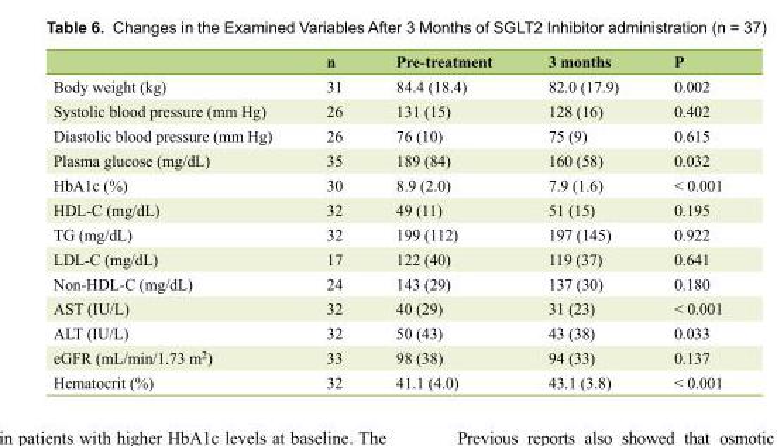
<table><thead><tr><td></td><td>n</td><td>Pre-treatment</td><td>3 months</td><td>P</td></tr></thead><tbody><tr><td>Body weight (kg)</td><td>31</td><td>84.4 (18.4)</td><td>82.0 (17.9)</td><td>0.002</td></tr><tr><td>Systolic blood pressure (mm Hg)</td><td>26</td><td>131 (15)</td><td>128 (16)</td><td>0.402</td></tr><tr><td>Diastolic blood pressure (mm Hg)</td><td>26</td><td>76 (10)</td><td>75 (9)</td><td>0.615</td></tr><tr><td>Plasma glucose (mg/dL)</td><td>35</td><td>189 (84)</td><td>160 (58)</td><td>0.032</td></tr><tr><td>HbA1c (%)</td><td>30</td><td>8.9 (2.0)</td><td>7.9 (1.6)</td><td>&lt; 0.001</td></tr><tr><td>HDL-C (mg/dL)</td><td>32</td><td>49 (11)</td><td>51 (15)</td><td>0.195</td></tr><tr><td>TG (mg/dL)</td><td>32</td><td>199 (112)</td><td>197 (145)</td><td>0.922</td></tr><tr><td>LDL-C (mg/dL)</td><td>17</td><td>122 (40)</td><td>119 (37)</td><td>0.641</td></tr><tr><td>Non-HDL-C (mg/dL)</td><td>24</td><td>143 (29)</td><td>137 (30)</td><td>0.180</td></tr><tr><td>AST (IU/L)</td><td>32</td><td>40 (29)</td><td>31 (23)</td><td>&lt; 0.001</td></tr><tr><td>ALT (IU/L)</td><td>32</td><td>50 (43)</td><td>43 (38)</td><td>0.033</td></tr><tr><td>eGFR (mL/min/1.73 m<sup>2</sup>)</td><td>33</td><td>98 (38)</td><td>94 (33)</td><td>0.137</td></tr><tr><td>Hematocrit (%)</td><td>32</td><td>41.1 (4.0)</td><td>43.1 (3.8)</td><td>&lt; 0.001</td></tr></tbody></table>